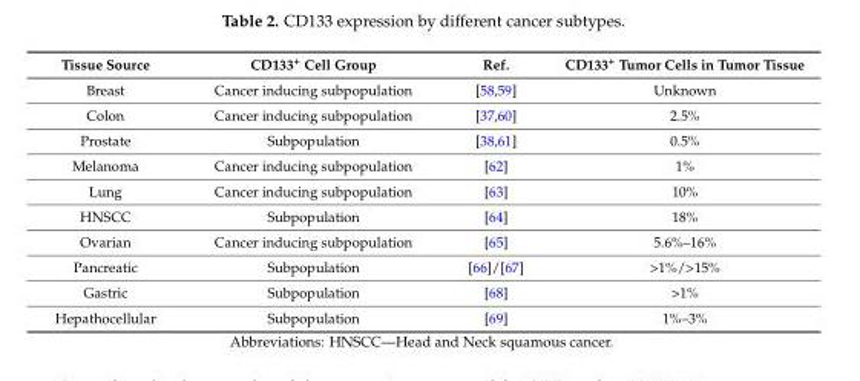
<table><thead><tr><td>Tissue Source</td><td>CD133<sup>+</sup> Cell Group</td><td>Ref.</td><td>CD133<sup>+</sup> Tumor Cells in Tumor Tissue</td></tr></thead><tbody><tr><td>Breast</td><td>Cancer inducing subpopulation</td><td>[58,59]</td><td>Unknown</td></tr><tr><td>Colon</td><td>Cancer inducing subpopulation</td><td>[37,60]</td><td>2.5%</td></tr><tr><td>Prostate</td><td>Subpopulation</td><td>[38,61]</td><td>0.5%</td></tr><tr><td>Melanoma</td><td>Cancer inducing subpopulation</td><td>[62]</td><td>1%</td></tr><tr><td>Lung</td><td>Cancer inducing subpopulation</td><td>[63]</td><td>10%</td></tr><tr><td>HNSCC</td><td>Subpopulation</td><td>[64]</td><td>18%</td></tr><tr><td>Ovarian</td><td>Cancer inducing subpopulation</td><td>[65]</td><td>5.6%–16%</td></tr><tr><td>Pancreatic</td><td>Subpopulation</td><td>[66]/[67]</td><td>&gt;1%/&gt;15%</td></tr><tr><td>Gastric</td><td>Subpopulation</td><td>[68]</td><td>&gt;1%</td></tr><tr><td>Hepathocellular</td><td>Subpopulation</td><td>[69]</td><td>1%–3%</td></tr></tbody></table>